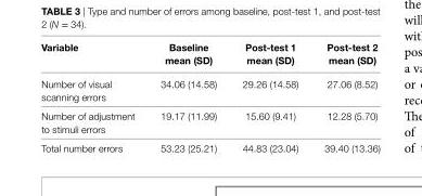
<table><thead><tr><td>Variable</td><td>baseline mean (sD)</td><td>Post-test 1 mean (sD)</td><td>Post-test 2 mean (sD)</td></tr></thead><tbody><tr><td>Number of visual scanning errors</td><td>34.06 (14.58)</td><td>29.26 (14.58)</td><td>27.06 (8.52)</td></tr><tr><td>Number of adjustment to stimuli errors</td><td>19.17 (11.99)</td><td>15.60 (9.41)</td><td>12.28 (5.70)</td></tr><tr><td>Total number errors</td><td>53.23 (25.21)</td><td>44.83 (23.04)</td><td>39.40 (13.36)</td></tr></tbody></table>